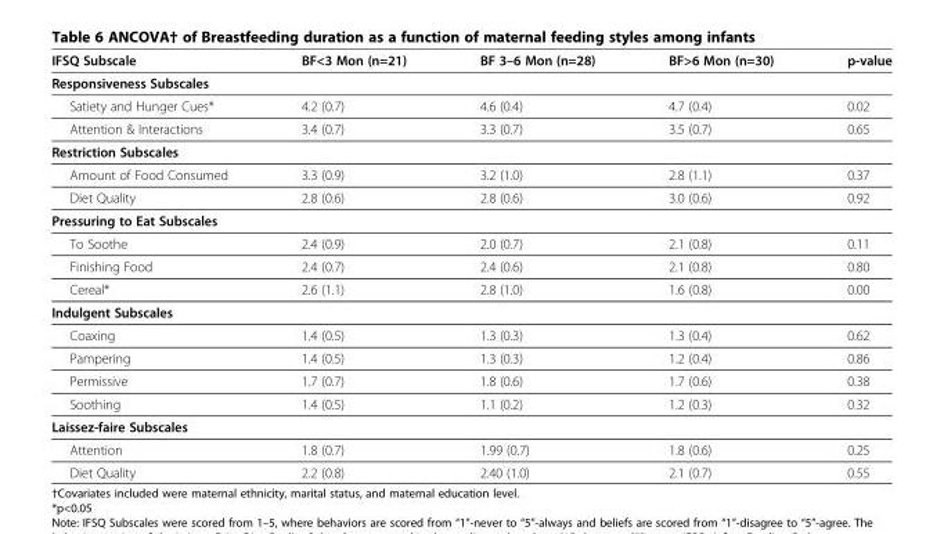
<table><thead><tr><td>IFSQ Subscale</td><td>BF&lt;3 Mon (n=21)</td><td>BF 3–6 Mon (n=28)</td><td>BF&gt;6 Mon (n=30)</td><td>p-value</td></tr></thead><tbody><tr><td colspan="5">Responsiveness Subscales</td></tr><tr><td>Satiety and Hunger Cues*</td><td>4.2 (0.7)</td><td>4.6 (0.4)</td><td>4.7 (0.4)</td><td>0.02</td></tr><tr><td>Attention &amp; Interactions</td><td>3.4 (0.7)</td><td>3.3 (0.7)</td><td>3.5 (0.7)</td><td>0.65</td></tr><tr><td colspan="5">Restriction Subscales</td></tr><tr><td>Amount of Food Consumed</td><td>3.3 (0.9)</td><td>3.2 (1.0)</td><td>2.8 (1.1)</td><td>0.37</td></tr><tr><td>Diet Quality</td><td>2.8 (0.6)</td><td>2.8 (0.6)</td><td>3.0 (0.6)</td><td>0.92</td></tr><tr><td colspan="5">Pressuring to Eat Subscales</td></tr><tr><td>To Soothe</td><td>2.4 (0.9)</td><td>2.0 (0.7)</td><td>2.1 (0.8)</td><td>0.11</td></tr><tr><td>Finishing Food</td><td>2.4 (0.7)</td><td>2.4 (0.6)</td><td>2.1 (0.8)</td><td>0.80</td></tr><tr><td>Cereal*</td><td>2.6 (1.1)</td><td>2.8 (1.0)</td><td>1.6 (0.8)</td><td>0.00</td></tr><tr><td colspan="5">Indulgent Subscales</td></tr><tr><td>Coaxing</td><td>1.4 (0.5)</td><td>1.3 (0.3)</td><td>1.3 (0.4)</td><td>0.62</td></tr><tr><td>Pampering</td><td>1.4 (0.5)</td><td>1.3 (0.3)</td><td>1.2 (0.4)</td><td>0.86</td></tr><tr><td>Permissive</td><td>1.7 (0.7)</td><td>1.8 (0.6)</td><td>1.7 (0.6)</td><td>0.38</td></tr><tr><td>Soothing</td><td>1.4 (0.5)</td><td>1.1 (0.2)</td><td>1.2 (0.3)</td><td>0.32</td></tr><tr><td colspan="5">Laissez-faire Subscales</td></tr><tr><td>Attention</td><td>1.8 (0.7)</td><td>1.99 (0.7)</td><td>1.8 (0.6)</td><td>0.25</td></tr><tr><td>Diet Quality</td><td>2.2 (0.8)</td><td>2.40 (1.0)</td><td>2.1 (0.7)</td><td>0.55</td></tr></tbody></table>